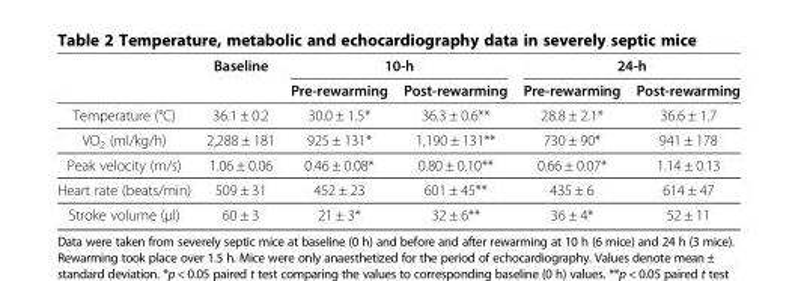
<table><thead><tr><td rowspan="2"></td><td rowspan="2">Baseline</td><td colspan="2">10-h</td><td colspan="2">24-h</td></tr><tr><td>Pre-rewarming</td><td>Post-rewarming</td><td>Pre-rewarming</td><td>Post-rewarming</td></tr></thead><tbody><tr><td>Temperature (°C)</td><td>36.1 ± 0.2</td><td>30.0 ± 1.5*</td><td>36.3 ± 0.6**</td><td>28.8 ± 2.1*</td><td>36.6 ± 1.7</td></tr><tr><td>VO<sub>2</sub> (ml/kg/h)</td><td>2,288 ± 181</td><td>925 ± 131*</td><td>1,190 ± 131**</td><td>730 ± 90*</td><td>941 ± 178</td></tr><tr><td>Peak velocity (m/s)</td><td>1.06 ± 0.06</td><td>0.46 ± 0.08*</td><td>0.80 ± 0.10**</td><td>0.66 ± 0.07*</td><td>1.14 ± 0.13</td></tr><tr><td>Heart rate (beats/min)</td><td>509 ± 31</td><td>452 ± 23</td><td>601 ± 45**</td><td>435 ± 6</td><td>614 ± 47</td></tr><tr><td>Stroke volume (μl)</td><td>60 ± 3</td><td>21 ± 3*</td><td>32 ± 6**</td><td>36 ± 4*</td><td>52 ± 11</td></tr></tbody></table>